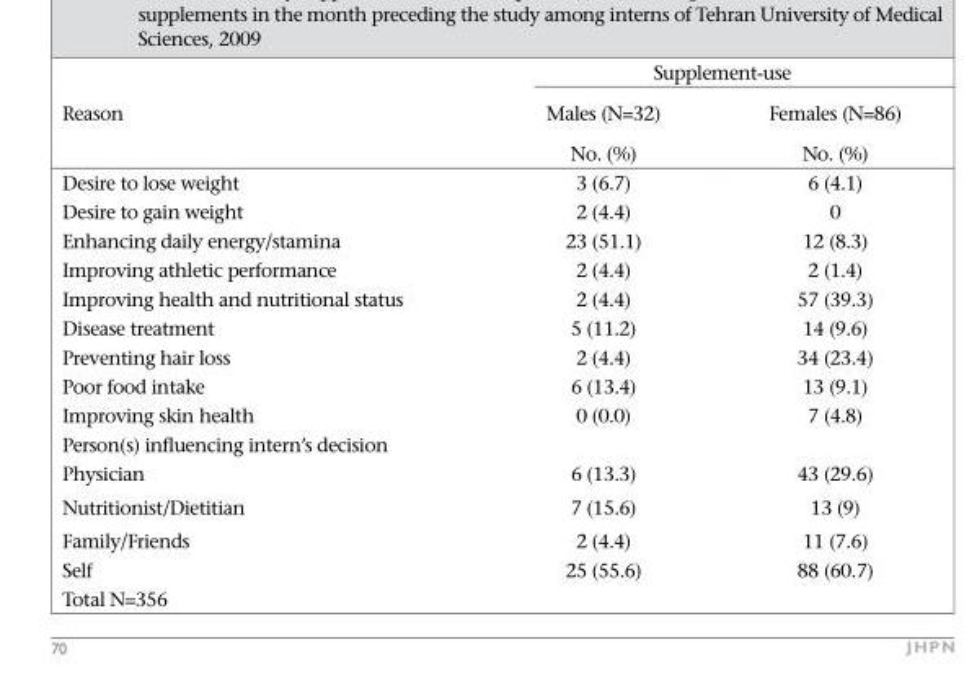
<table><thead><tr><td rowspan="3">Reason</td><td colspan="2">Supplement-use</td></tr><tr><td rowspan="2">Males (N=32) No. (%)</td><td rowspan="2">Females (N=86) No. (%)</td></tr><tr></tr></thead><tbody><tr><td>Desire to lose weight</td><td>3 (6.7)</td><td>6 (4.1)</td></tr><tr><td>Desire to gain weight</td><td>2 (4.4)</td><td>0</td></tr><tr><td>Enhancing daily energy/stamina</td><td>23 (51.1)</td><td>12 (8.3)</td></tr><tr><td>Improving athletic performance</td><td>2 (4.4)</td><td>2 (1.4)</td></tr><tr><td>Improving health and nutritional status</td><td>2 (4.4)</td><td>57 (39.3)</td></tr><tr><td>Disease treatment</td><td>5 (11.2)</td><td>14 (9.6)</td></tr><tr><td>Preventing hair loss</td><td>2 (4.4)</td><td>34 (23.4)</td></tr><tr><td>Poor food intake</td><td>6 (13.4)</td><td>13 (9.1)</td></tr><tr><td>Improving skin health</td><td>0 (0.0)</td><td>7 (4.8)</td></tr><tr><td colspan="3">Person(s) influencing intern’s decision</td></tr><tr><td>Physician</td><td>6 (13.3)</td><td>43 (29.6)</td></tr><tr><td>Nutritionist/Dietitian</td><td>7 (15.6)</td><td>13 (9)</td></tr><tr><td>Family/Friends</td><td>2 (4.4)</td><td>11 (7.6)</td></tr><tr><td>Self</td><td>25 (55.6)</td><td>88 (60.7)</td></tr><tr><td>Total N=356</td><td></td><td></td></tr></tbody></table>